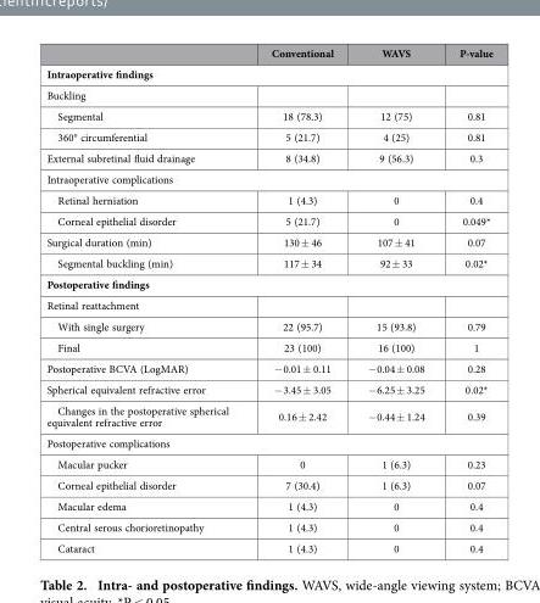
<table><thead><tr><td></td><td>Conventional</td><td>WAVS</td><td>P-value</td></tr></thead><tbody><tr><td colspan="4">Intraoperative findings</td></tr><tr><td colspan="4">Buckling</td></tr><tr><td>Segmental</td><td>18 (78.3)</td><td>12 (75)</td><td>0.81</td></tr><tr><td>360° circumferential</td><td>5 (21.7)</td><td>4 (25)</td><td>0.81</td></tr><tr><td>External subretinal fluid drainage</td><td>8 (34.8)</td><td>9 (56.3)</td><td>0.3</td></tr><tr><td colspan="4">Intraoperative complications</td></tr><tr><td>Retinal herniation</td><td>1 (4.3)</td><td>0</td><td>0.4</td></tr><tr><td>Corneal epithelial disorder</td><td>5 (21.7)</td><td>0</td><td>0.049*</td></tr><tr><td>Surgical duration (min)</td><td>130 ± 46</td><td>107 ± 41</td><td>0.07</td></tr><tr><td>Segmental buckling (min)</td><td>117 ± 34</td><td>92 ± 33</td><td>0.02*</td></tr><tr><td colspan="4">Postoperative findings</td></tr><tr><td colspan="4">Retinal reattachment</td></tr><tr><td>With single surgery</td><td>22 (95.7)</td><td>15 (93.8)</td><td>0.79</td></tr><tr><td>Final</td><td>23 (100)</td><td>16 (100)</td><td>1</td></tr><tr><td>Postoperative BCVA (LogMAR)</td><td>− 0.01 ± 0.11</td><td>− 0.04 ± 0.08</td><td>0.28</td></tr><tr><td>Spherical equivalent refractive error</td><td>− 3.45 ± 3.05</td><td>− 6.25 ± 3.25</td><td>0.02*</td></tr><tr><td>Changes in the postoperative spherical equivalent refractive error</td><td>0.16 ± 2.42</td><td>− 0.44 ± 1.24</td><td>0.39</td></tr><tr><td colspan="4">Postoperative complications</td></tr><tr><td>Macular pucker</td><td>0</td><td>1 (6.3)</td><td>0.23</td></tr><tr><td>Corneal epithelial disorder</td><td>7 (30.4)</td><td>1 (6.3)</td><td>0.07</td></tr><tr><td>Macular edema</td><td>1 (4.3)</td><td>0</td><td>0.4</td></tr><tr><td>Central serous chorioretinopathy</td><td>1 (4.3)</td><td>0</td><td>0.4</td></tr><tr><td>Cataract</td><td>1 (4.3)</td><td>0</td><td>0.4</td></tr></tbody></table>